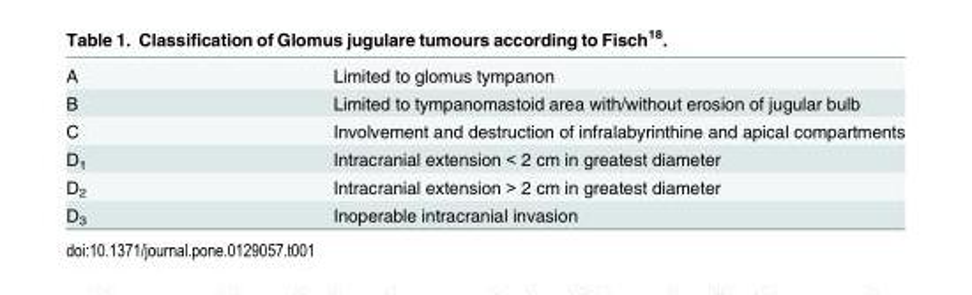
<table><tbody><tr><td>A</td><td>Limited to glomus tympanon</td></tr><tr><td>B</td><td>Limited to tympanomastoid area with/without erosion of jugular bulb</td></tr><tr><td>C</td><td>Involvement and destruction of infralabyrinthine and apical compartments</td></tr><tr><td>D<sub>1</sub></td><td>Intracranial extension &lt; 2 cm in greatest diameter</td></tr><tr><td>D<sub>2</sub></td><td>Intracranial extension &gt; 2 cm in greatest diameter</td></tr><tr><td>D<sub>3</sub></td><td>Inoperable intracranial invasion</td></tr></tbody></table>